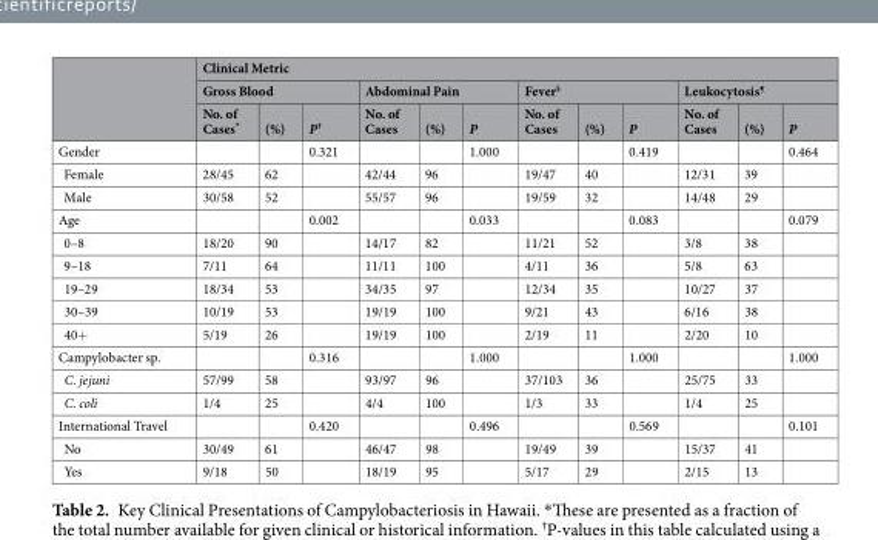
<table><thead><tr><td rowspan="3"></td><td colspan="12">Clinical Metric</td></tr><tr><td colspan="3">Gross Blood</td><td colspan="3">Abdominal Pain</td><td colspan="3">Fever<sup>§</sup></td><td colspan="3">Leukocytosis<sup>¶</sup></td></tr><tr><td>No. of Cases*</td><td>(%)</td><td>P<sup>†</sup></td><td>No. of Cases</td><td>(%)</td><td>P</td><td>No. of Cases</td><td>(%)</td><td>P</td><td>No. of Cases</td><td>(%)</td><td>P</td></tr></thead><tbody><tr><td>Gender</td><td></td><td></td><td>0.321</td><td></td><td></td><td>1.000</td><td></td><td></td><td>0.419</td><td></td><td></td><td>0.464</td></tr><tr><td>Female</td><td>28/45</td><td>62</td><td></td><td>42/44</td><td>96</td><td></td><td>19/47</td><td>40</td><td></td><td>12/31</td><td>39</td><td></td></tr><tr><td>Male</td><td>30/58</td><td>52</td><td></td><td>55/57</td><td>96</td><td></td><td>19/59</td><td>32</td><td></td><td>14/48</td><td>29</td><td></td></tr><tr><td>Age</td><td></td><td></td><td>0.002</td><td></td><td></td><td>0.033</td><td></td><td></td><td>0.083</td><td></td><td></td><td>0.079</td></tr><tr><td>0–8</td><td>18/20</td><td>90</td><td></td><td>14/17</td><td>82</td><td></td><td>11/21</td><td>52</td><td></td><td>3/8</td><td>38</td><td></td></tr><tr><td>9–18</td><td>7/11</td><td>64</td><td></td><td>11/11</td><td>100</td><td></td><td>4/11</td><td>36</td><td></td><td>5/8</td><td>63</td><td></td></tr><tr><td>19–29</td><td>18/34</td><td>53</td><td></td><td>34/35</td><td>97</td><td></td><td>12/34</td><td>35</td><td></td><td>10/27</td><td>37</td><td></td></tr><tr><td>30–39</td><td>10/19</td><td>53</td><td></td><td>19/19</td><td>100</td><td></td><td>9/21</td><td>43</td><td></td><td>6/16</td><td>38</td><td></td></tr><tr><td>40+</td><td>5/19</td><td>26</td><td></td><td>19/19</td><td>100</td><td></td><td>2/19</td><td>11</td><td></td><td>2/20</td><td>10</td><td></td></tr><tr><td>Campylobacter sp.</td><td></td><td></td><td>0.316</td><td></td><td></td><td>1.000</td><td></td><td></td><td>1.000</td><td></td><td></td><td>1.000</td></tr><tr><td>C. jejuni</td><td>57/99</td><td>58</td><td></td><td>93/97</td><td>96</td><td></td><td>37/103</td><td>36</td><td></td><td>25/75</td><td>33</td><td></td></tr><tr><td>C. coli</td><td>1/4</td><td>25</td><td></td><td>4/4</td><td>100</td><td></td><td>1/3</td><td>33</td><td></td><td>1/4</td><td>25</td><td></td></tr><tr><td>International Travel</td><td></td><td></td><td>0.420</td><td></td><td></td><td>0.496</td><td></td><td></td><td>0.569</td><td></td><td></td><td>0.101</td></tr><tr><td>No</td><td>30/49</td><td>61</td><td></td><td>46/47</td><td>98</td><td></td><td>19/49</td><td>39</td><td></td><td>15/37</td><td>41</td><td></td></tr><tr><td>Yes</td><td>9/18</td><td>50</td><td></td><td>18/19</td><td>95</td><td></td><td>5/17</td><td>29</td><td></td><td>2/15</td><td>13</td><td></td></tr></tbody></table>